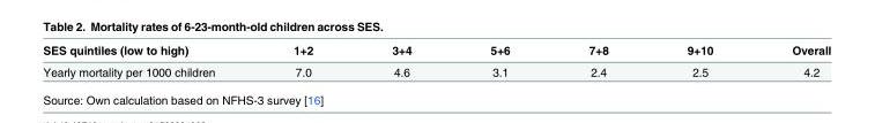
<table><thead><tr><td>SES quintiles (low to high)</td><td>1+2</td><td>3+4</td><td>5+6</td><td>7+8</td><td>9+10</td><td>Overall</td></tr></thead><tbody><tr><td>Yearly mortality per 1000 children</td><td>7.0</td><td>4.6</td><td>3.1</td><td>2.4</td><td>2.5</td><td>4.2</td></tr></tbody></table>